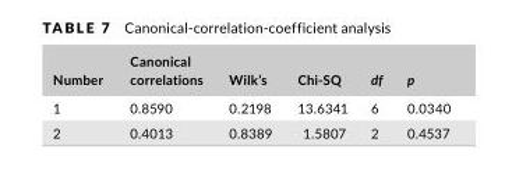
<table><thead><tr><td>Number</td><td>Canonical correlations</td><td>Wilk’s</td><td>Chi- SQ</td><td>df</td><td>p</td></tr></thead><tbody><tr><td>1</td><td>0.8590</td><td>0.2198</td><td>13.6341</td><td>6</td><td>0.0340</td></tr><tr><td>2</td><td>0.4013</td><td>0.8389</td><td>1.5807</td><td>2</td><td>0.4537</td></tr></tbody></table>